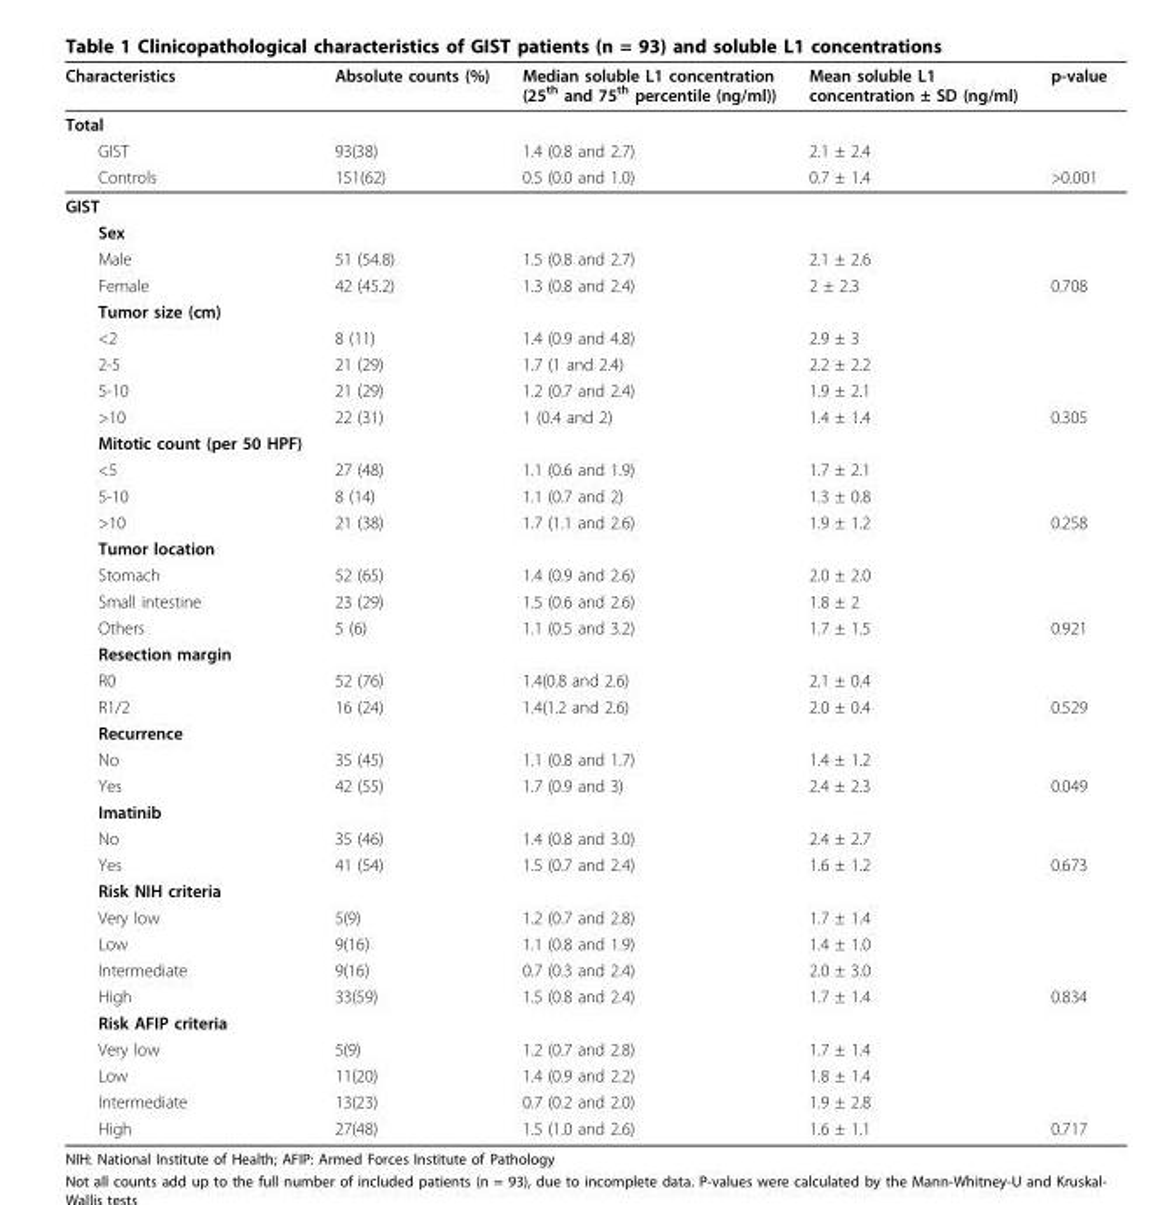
<table><thead><tr><td>Characteristics</td><td>Absolute counts (%)</td><td>Median soluble L1 concentration (25<sup>th</sup> and 75<sup>th</sup> percentile (ng/ml))</td><td>Mean soluble L1 concentration ± SD (ng/ml)</td><td>p-value</td></tr></thead><tbody><tr><td colspan="5">Total</td></tr><tr><td>GIST</td><td>93(38)</td><td>1.4 (0.8 and 2.7)</td><td>2.1 ± 2.4</td><td></td></tr><tr><td>Controls</td><td>151(62)</td><td>0.5 (0.0 and 1.0)</td><td>0.7 ± 1.4</td><td>&gt;0.001</td></tr><tr><td colspan="5">GIST</td></tr><tr><td colspan="5">Sex</td></tr><tr><td>Male</td><td>51 (54.8)</td><td>1.5 (0.8 and 2.7)</td><td>2.1 ± 2.6</td><td></td></tr><tr><td>Female</td><td>42 (45.2)</td><td>1.3 (0.8 and 2.4)</td><td>2 ± 2.3</td><td>0.708</td></tr><tr><td colspan="5">Tumor size (cm)</td></tr><tr><td>&lt;2</td><td>8 (11)</td><td>1.4 (0.9 and 4.8)</td><td>2.9 ± 3</td><td></td></tr><tr><td>2-5</td><td>21 (29)</td><td>1.7 (1 and 2.4)</td><td>2.2 ± 2.2</td><td></td></tr><tr><td>5-10</td><td>21 (29)</td><td>1.2 (0.7 and 2.4)</td><td>1.9 ± 2.1</td><td></td></tr><tr><td>&gt;10</td><td>22 (31)</td><td>1 (0.4 and 2)</td><td>1.4 ± 1.4</td><td>0.305</td></tr><tr><td colspan="5">Mitotic count (per 50 HPF)</td></tr><tr><td>&lt;5</td><td>27 (48)</td><td>1.1 (0.6 and 1.9)</td><td>1.7 ± 2.1</td><td></td></tr><tr><td>5-10</td><td>8 (14)</td><td>1.1 (0.7 and 2)</td><td>1.3 ± 0.8</td><td></td></tr><tr><td>&gt;10</td><td>21 (38)</td><td>1.7 (1.1 and 2.6)</td><td>1.9 ± 1.2</td><td>0.258</td></tr><tr><td colspan="5">Tumor location</td></tr><tr><td>Stomach</td><td>52 (65)</td><td>1.4 (0.9 and 2.6)</td><td>2.0 ± 2.0</td><td></td></tr><tr><td>Small intestine</td><td>23 (29)</td><td>1.5 (0.6 and 2.6)</td><td>1.8 ± 2</td><td></td></tr><tr><td>Others</td><td>5 (6)</td><td>1.1 (0.5 and 3.2)</td><td>1.7 ± 1.5</td><td>0.921</td></tr><tr><td colspan="5">Resection margin</td></tr><tr><td>R0</td><td>52 (76)</td><td>1.4(0.8 and 2.6)</td><td>2.1 ± 0.4</td><td></td></tr><tr><td>R1/2</td><td>16 (24)</td><td>1.4(1.2 and 2.6)</td><td>2.0 ± 0.4</td><td>0.529</td></tr><tr><td colspan="5">Recurrence</td></tr><tr><td>No</td><td>35 (45)</td><td>1.1 (0.8 and 1.7)</td><td>1.4 ± 1.2</td><td></td></tr><tr><td>Yes</td><td>42 (55)</td><td>1.7 (0.9 and 3)</td><td>2.4 ± 2.3</td><td>0.049</td></tr><tr><td colspan="5">Imatinib</td></tr><tr><td>No</td><td>35 (46)</td><td>1.4 (0.8 and 3.0)</td><td>2.4 ± 2.7</td><td></td></tr><tr><td>Yes</td><td>41 (54)</td><td>1.5 (0.7 and 2.4)</td><td>1.6 ± 1.2</td><td>0.673</td></tr><tr><td colspan="5">Risk NIH criteria</td></tr><tr><td>Very low</td><td>5(9)</td><td>1.2 (0.7 and 2.8)</td><td>1.7 ± 1.4</td><td></td></tr><tr><td>Low</td><td>9(16)</td><td>1.1 (0.8 and 1.9)</td><td>1.4 ± 1.0</td><td></td></tr><tr><td>Intermediate</td><td>9(16)</td><td>0.7 (0.3 and 2.4)</td><td>2.0 ± 3.0</td><td></td></tr><tr><td>High</td><td>33(59)</td><td>1.5 (0.8 and 2.4)</td><td>1.7 ± 1.4</td><td>0.834</td></tr><tr><td colspan="5">Risk AFIP criteria</td></tr><tr><td>Very low</td><td>5(9)</td><td>1.2 (0.7 and 2.8)</td><td>1.7 ± 1.4</td><td></td></tr><tr><td>Low</td><td>11(20)</td><td>1.4 (0.9 and 2.2)</td><td>1.8 ± 1.4</td><td></td></tr><tr><td>Intermediate</td><td>13(23)</td><td>0.7 (0.2 and 2.0)</td><td>1.9 ± 2.8</td><td></td></tr><tr><td>High</td><td>27(48)</td><td>1.5 (1.0 and 2.6)</td><td>1.6 ± 1.1</td><td>0.717</td></tr></tbody></table>